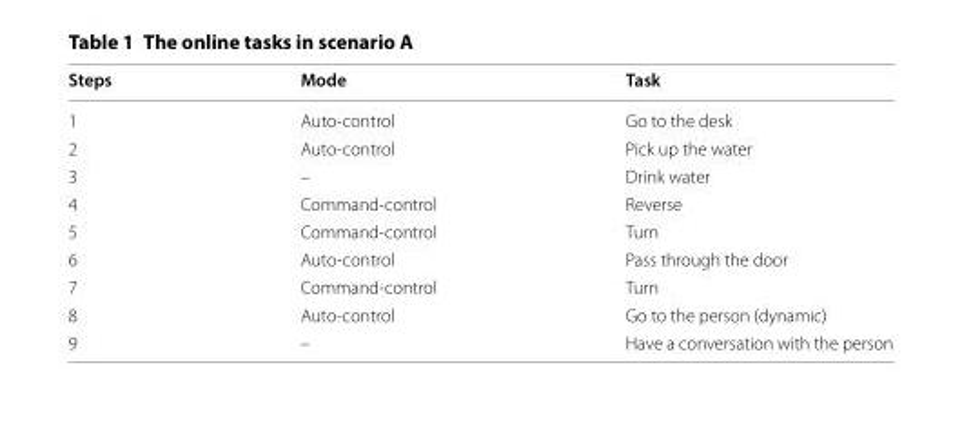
<table><thead><tr><td>Steps</td><td>Mode</td><td>Task</td></tr></thead><tbody><tr><td>1</td><td>Auto-control</td><td>Go to the desk</td></tr><tr><td>2</td><td>Auto-control</td><td>Pick up the water</td></tr><tr><td>3</td><td>–</td><td>Drink water</td></tr><tr><td>4</td><td>Command-control</td><td>Reverse</td></tr><tr><td>5</td><td>Command-control</td><td>Turn</td></tr><tr><td>6</td><td>Auto-control</td><td>Pass through the door</td></tr><tr><td>7</td><td>Command-control</td><td>Turn</td></tr><tr><td>8</td><td>Auto-control</td><td>Go to the person (dynamic)</td></tr><tr><td>9</td><td>–</td><td>Have a conversation with the person</td></tr></tbody></table>